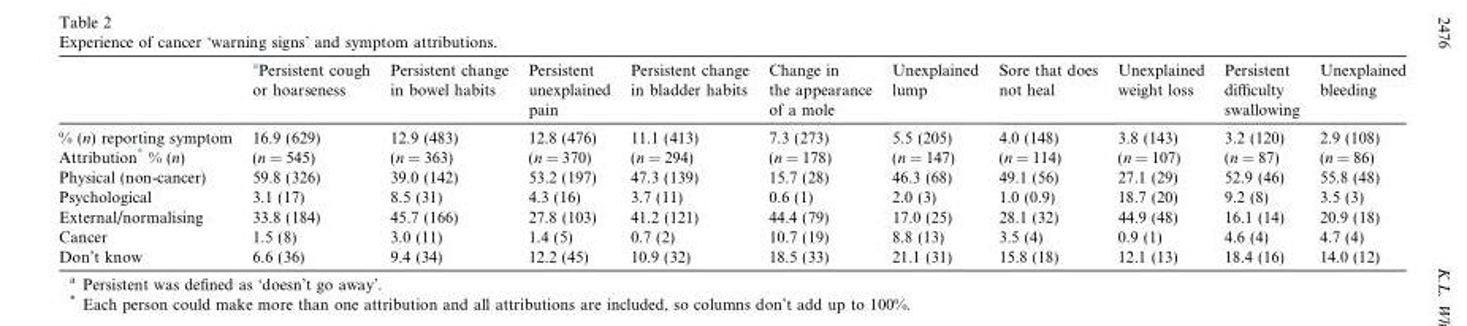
<table><thead><tr><td></td><td>aPersistent cough or hoarseness</td><td>Persistent change in bowel habits</td><td>Persistent unexplained pain</td><td>Persistent change in bladder habits</td><td>Change in the appearance of a mole</td><td>Unexplained lump</td><td>Sore that does not heal</td><td>Unexplained weight loss</td><td>Persistent difficulty swallowing</td><td>Unexplained bleeding</td></tr></thead><tbody><tr><td>% (n) reporting symptom</td><td>16.9 (629)</td><td>12.9 (483)</td><td>12.8 (476)</td><td>11.1 (413)</td><td>7.3 (273)</td><td>5.5 (205)</td><td>4.0 (148)</td><td>3.8 (143)</td><td>3.2 (120)</td><td>2.9 (108)</td></tr><tr><td>Attribution* % (n)</td><td>(n = 545)</td><td>(n = 363)</td><td>(n = 370)</td><td>(n = 294)</td><td>(n = 178)</td><td>(n = 147)</td><td>(n = 114)</td><td>(n = 107)</td><td>(n = 87)</td><td>(n = 86)</td></tr><tr><td>Physical (non-cancer)</td><td>59.8 (326)</td><td>39.0 (142)</td><td>53.2 (197)</td><td>47.3 (139)</td><td>15.7 (28)</td><td>46.3 (68)</td><td>49.1 (56)</td><td>27.1 (29)</td><td>52.9 (46)</td><td>55.8 (48)</td></tr><tr><td>Psychological</td><td>3.1 (17)</td><td>8.5 (31)</td><td>4.3 (16)</td><td>3.7 (11)</td><td>0.6 (1)</td><td>2.0 (3)</td><td>1.0 (0.9)</td><td>18.7 (20)</td><td>9.2 (8)</td><td>3.5 (3)</td></tr><tr><td>External/normalising</td><td>33.8 (184)</td><td>45.7 (166)</td><td>27.8 (103)</td><td>41.2 (121)</td><td>44.4 (79)</td><td>17.0 (25)</td><td>28.1 (32)</td><td>44.9 (48)</td><td>16.1 (14)</td><td>20.9 (18)</td></tr><tr><td>Cancer</td><td>1.5 (8)</td><td>3.0 (11)</td><td>1.4 (5)</td><td>0.7 (2)</td><td>10.7 (19)</td><td>8.8 (13)</td><td>3.5 (4)</td><td>0.9 (1)</td><td>4.6 (4)</td><td>4.7 (4)</td></tr><tr><td>Don’t know</td><td>6.6 (36)</td><td>9.4 (34)</td><td>12.2 (45)</td><td>10.9 (32)</td><td>18.5 (33)</td><td>21.1 (31)</td><td>15.8 (18)</td><td>12.1 (13)</td><td>18.4 (16)</td><td>14.0 (12)</td></tr></tbody></table>